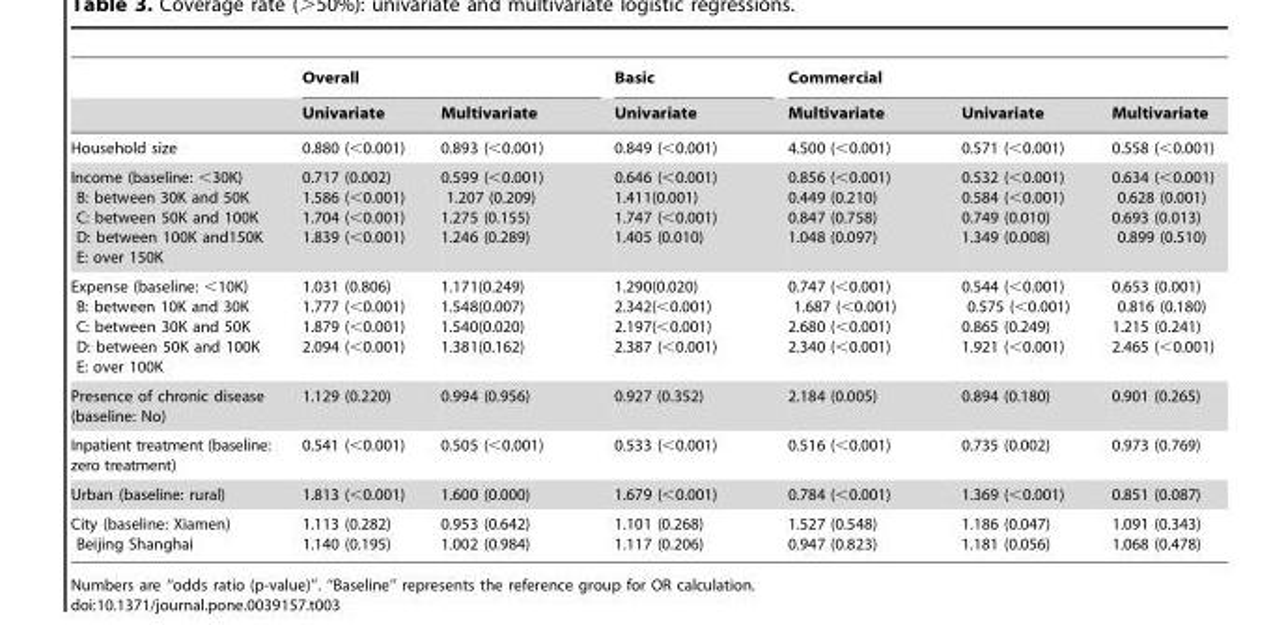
<table><thead><tr><td rowspan="2"></td><td colspan="2">Overall</td><td rowspan="2">Basic Univariate</td><td colspan="3">Commercial</td></tr><tr><td>Univariate</td><td>Multivariate</td><td>Multivariate</td><td>Univariate</td><td>Multivariate</td></tr></thead><tbody><tr><td>Household size</td><td>0.880 (&lt;0.001)</td><td>0.893 (&lt;0.001)</td><td>0.849 (&lt;0.001)</td><td>4.500 (&lt;0.001)</td><td>0.571 (&lt;0.001)</td><td>0.558 (&lt;0.001)</td></tr><tr><td>Income (baseline: &lt;30K) B: between 30K and 50K C: between 50K and 100K D: between 100K and150K E: over 150K</td><td>0.717 (0.002) 1.586 (&lt;0.001) 1.704 (&lt;0.001) 1.839 (&lt;0.001)</td><td>0.599 (&lt;0.001) 1.207 (0.209) 1.275 (0.155) 1.246 (0.289)</td><td>0.646 (&lt;0.001) 1.411(0.001) 1.747 (&lt;0.001) 1.405 (0.010)</td><td>0.856 (&lt;0.001) 0.449 (0.210) 0.847 (0.758) 1.048 (0.097)</td><td>0.532 (&lt;0.001) 0.584 (&lt;0.001) 0.749 (0.010) 1.349 (0.008)</td><td>0.634 (&lt;0.001) 0.628 (0.001) 0.693 (0.013) 0.899 (0.510)</td></tr><tr><td>Expense (baseline: &lt;10K) B: between 10K and 30K C: between 30K and 50K D: between 50K and 100K E: over 100K</td><td>1.031 (0.806) 1.777 (&lt;0.001) 1.879 (&lt;0.001) 2.094 (&lt;0.001)</td><td>1.171(0.249) 1.548(0.007) 1.540(0.020) 1.381(0.162)</td><td>1.290(0.020) 2.342(&lt;0.001) 2.197(&lt;0.001) 2.387 (&lt;0.001)</td><td>0.747 (&lt;0.001) 1.687 (&lt;0.001) 2.680 (&lt;0.001) 2.340 (&lt;0.001)</td><td>0.544 (&lt;0.001) 0.575 (&lt;0.001) 0.865 (0.249) 1.921 (&lt;0.001)</td><td>0.653 (0.001) 0.816 (0.180) 1.215 (0.241) 2.465 (&lt;0.001)</td></tr><tr><td>Presence of chronic disease (baseline: No)</td><td>1.129 (0.220)</td><td>0.994 (0.956)</td><td>0.927 (0.352)</td><td>2.184 (0.005)</td><td>0.894 (0.180)</td><td>0.901 (0.265)</td></tr><tr><td>Inpatient treatment (baseline: zero treatment)</td><td>0.541 (&lt;0.001)</td><td>0.505 (&lt;0.001)</td><td>0.533 (&lt;0.001)</td><td>0.516 (&lt;0.001)</td><td>0.735 (0.002)</td><td>0.973 (0.769)</td></tr><tr><td>Urban (baseline: rural)</td><td>1.813 (&lt;0.001)</td><td>1.600 (0.000)</td><td>1.679 (&lt;0.001)</td><td>0.784 (&lt;0.001)</td><td>1.369 (&lt;0.001)</td><td>0.851 (0.087)</td></tr><tr><td>City (baseline: Xiamen) Beijing Shanghai</td><td>1.113 (0.282) 1.140 (0.195)</td><td>0.953 (0.642) 1.002 (0.984)</td><td>1.101 (0.268) 1.117 (0.206)</td><td>1.527 (0.548) 0.947 (0.823)</td><td>1.186 (0.047) 1.181 (0.056)</td><td>1.091 (0.343) 1.068 (0.478)</td></tr></tbody></table>